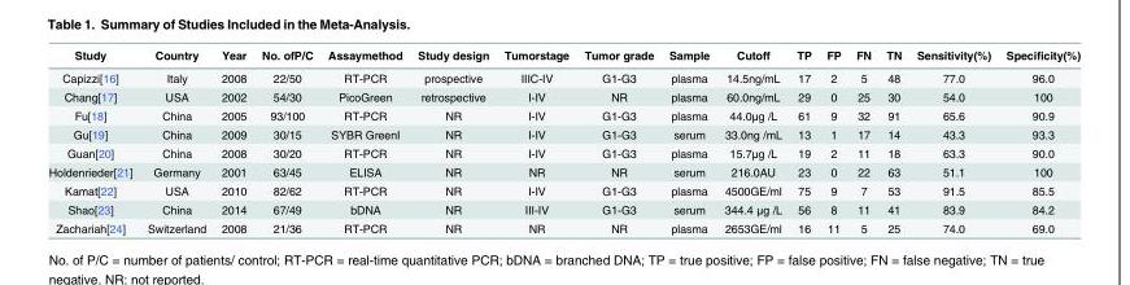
<table><thead><tr><td>Study</td><td>Country</td><td>Year</td><td>No. ofP/C</td><td>Assaymethod</td><td>Study design</td><td>Tumorstage</td><td>Tumor grade</td><td>Sample</td><td>Cutoff</td><td>TP</td><td>FP</td><td>FN</td><td>TN</td><td>Sensitivity(%)</td><td>Specificity(%)</td></tr></thead><tbody><tr><td>Capizzi[16]</td><td>Italy</td><td>2008</td><td>22/50</td><td>RT-PCR</td><td>prospective</td><td>IIIC-IV</td><td>G1-G3</td><td>plasma</td><td>14.5ng/mL</td><td>17</td><td>2</td><td>5</td><td>48</td><td>77.0</td><td>96.0</td></tr><tr><td>Chang[17]</td><td>USA</td><td>2002</td><td>54/30</td><td>PicoGreen</td><td>retrospective</td><td>I-IV</td><td>NR</td><td>plasma</td><td>60.0ng/mL</td><td>29</td><td>0</td><td>25</td><td>30</td><td>54.0</td><td>100</td></tr><tr><td>Fu[18]</td><td>China</td><td>2005</td><td>93/100</td><td>RT-PCR</td><td>NR</td><td>I-IV</td><td>G1-G3</td><td>plasma</td><td>44.0μg /L</td><td>61</td><td>9</td><td>32</td><td>91</td><td>65.6</td><td>90.9</td></tr><tr><td>Gu[19]</td><td>China</td><td>2009</td><td>30/15</td><td>SYBR GreenI</td><td>NR</td><td>I-IV</td><td>G1-G3</td><td>serum</td><td>33.0ng /mL</td><td>13</td><td>1</td><td>17</td><td>14</td><td>43.3</td><td>93.3</td></tr><tr><td>Guan[20]</td><td>China</td><td>2008</td><td>30/20</td><td>RT-PCR</td><td>NR</td><td>I-IV</td><td>G1-G3</td><td>plasma</td><td>15.7μg /L</td><td>19</td><td>2</td><td>11</td><td>18</td><td>63.3</td><td>90.0</td></tr><tr><td>Holdenrieder[21]</td><td>Germany</td><td>2001</td><td>63/45</td><td>ELISA</td><td>NR</td><td>NR</td><td>NR</td><td>serum</td><td>216.0AU</td><td>23</td><td>0</td><td>22</td><td>63</td><td>51.1</td><td>100</td></tr><tr><td>Kamat[22]</td><td>USA</td><td>2010</td><td>82/62</td><td>RT-PCR</td><td>NR</td><td>I-IV</td><td>G1-G3</td><td>plasma</td><td>4500GE/ml</td><td>75</td><td>9</td><td>7</td><td>53</td><td>91.5</td><td>85.5</td></tr><tr><td>Shao[23]</td><td>China</td><td>2014</td><td>67/49</td><td>bDNA</td><td>NR</td><td>III-IV</td><td>G1-G3</td><td>serum</td><td>344.4 μg /L</td><td>56</td><td>8</td><td>11</td><td>41</td><td>83.9</td><td>84.2</td></tr><tr><td>Zachariah[24]</td><td>Switzerland</td><td>2008</td><td>21/36</td><td>RT-PCR</td><td>NR</td><td>NR</td><td>NR</td><td>plasma</td><td>2653GE/ml</td><td>16</td><td>11</td><td>5</td><td>25</td><td>74.0</td><td>69.0</td></tr></tbody></table>